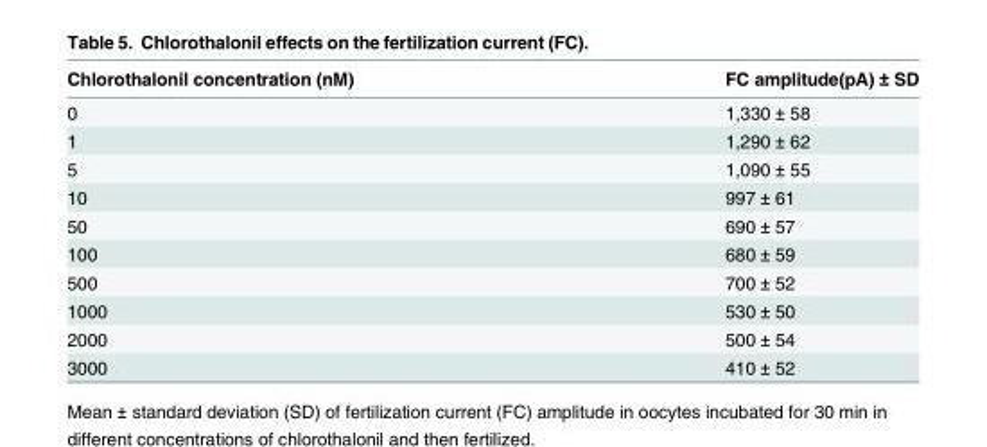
<table><thead><tr><td>Chlorothalonil concentration (nM)</td><td>FC amplitude(pA) ± SD</td></tr></thead><tbody><tr><td>0</td><td>1,330 ± 58</td></tr><tr><td>1</td><td>1,290 ± 62</td></tr><tr><td>5</td><td>1,090 ± 55</td></tr><tr><td>10</td><td>997 ± 61</td></tr><tr><td>50</td><td>690 ± 57</td></tr><tr><td>100</td><td>680 ± 59</td></tr><tr><td>500</td><td>700 ± 52</td></tr><tr><td>1000</td><td>530 ± 50</td></tr><tr><td>2000</td><td>500 ± 54</td></tr><tr><td>3000</td><td>410 ± 52</td></tr></tbody></table>